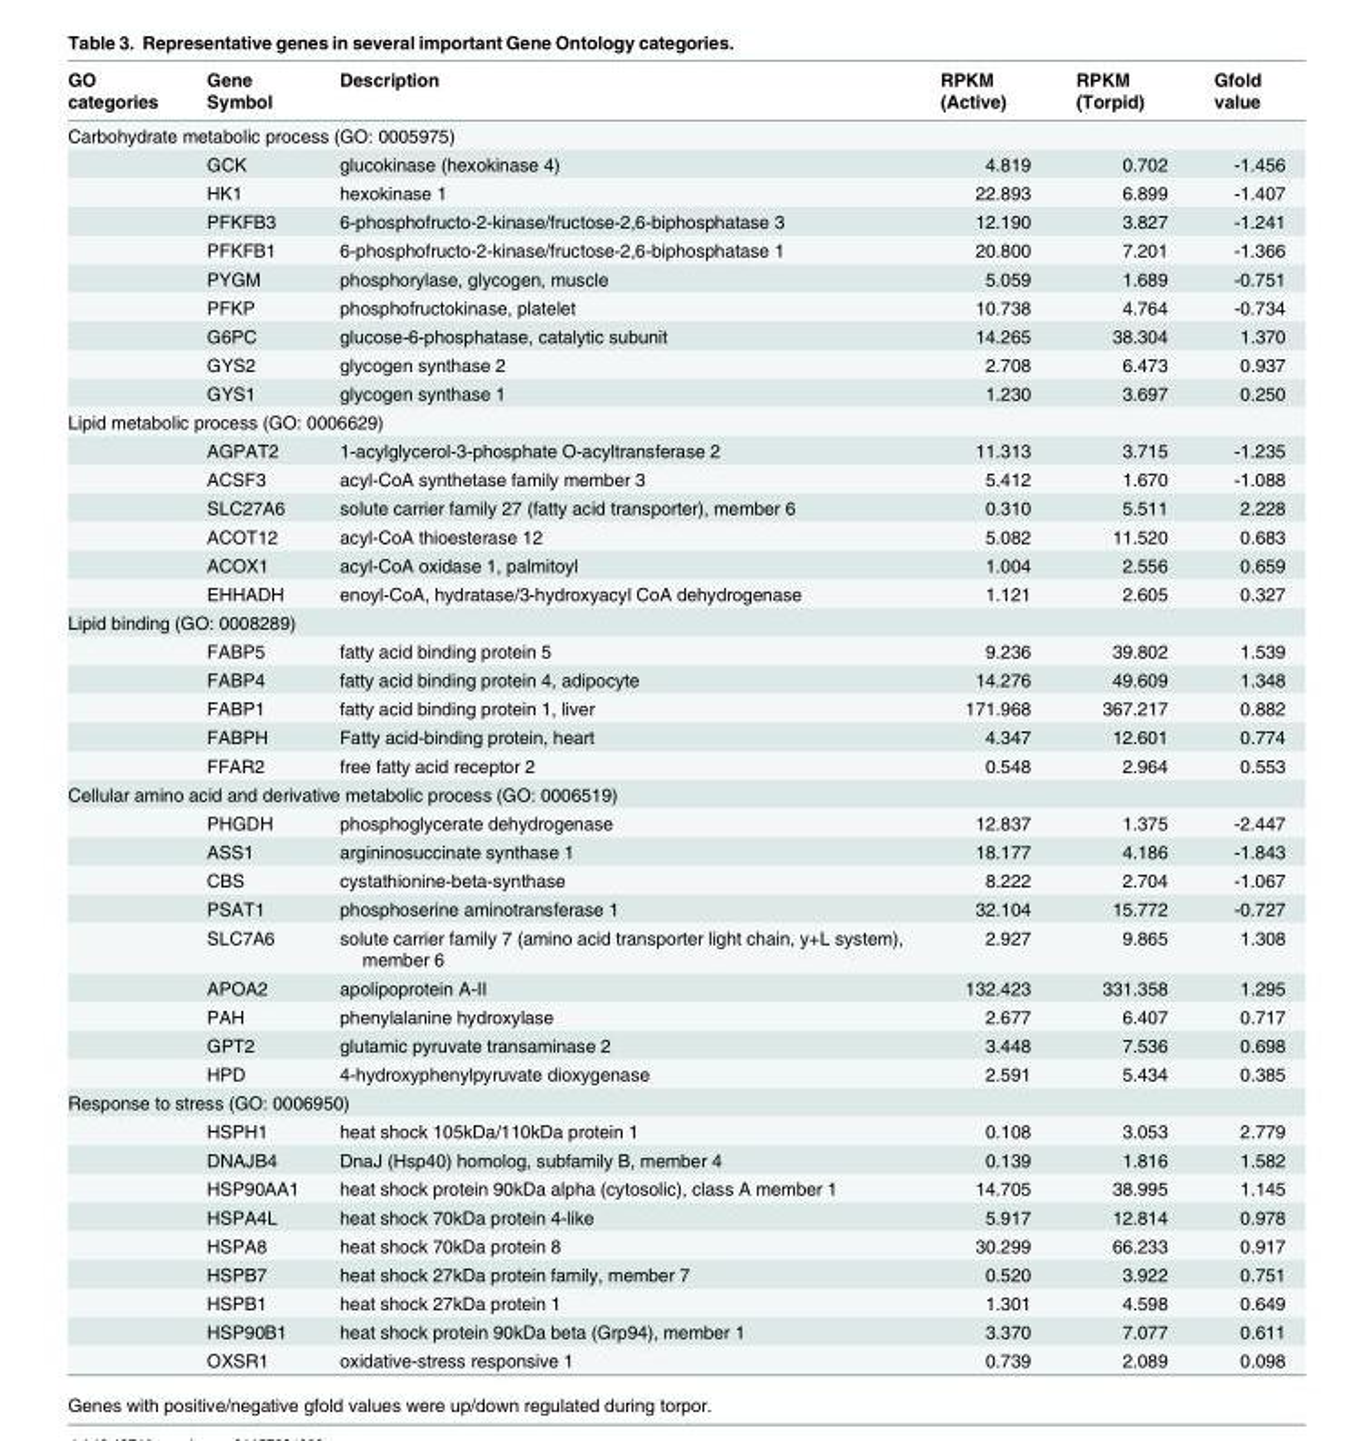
<table><thead><tr><td>GO categories</td><td>Gene Symbol</td><td>Description</td><td>RPKM (Active)</td><td>RPKM (Torpid)</td><td>Gfold value</td></tr></thead><tbody><tr><td colspan="6">Carbohydrate metabolic process (GO: 0005975)</td></tr><tr><td></td><td>GCK</td><td>glucokinase (hexokinase 4)</td><td>4.819</td><td>0.702</td><td>-1.456</td></tr><tr><td></td><td>HK1</td><td>hexokinase 1</td><td>22.893</td><td>6.899</td><td>-1.407</td></tr><tr><td></td><td>PFKFB3</td><td>6-phosphofructo-2-kinase/fructose-2,6-biphosphatase 3</td><td>12.190</td><td>3.827</td><td>-1.241</td></tr><tr><td></td><td>PFKFB1</td><td>6-phosphofructo-2-kinase/fructose-2,6-biphosphatase 1</td><td>20.800</td><td>7.201</td><td>-1.366</td></tr><tr><td></td><td>PYGM</td><td>phosphorylase, glycogen, muscle</td><td>5.059</td><td>1.689</td><td>-0.751</td></tr><tr><td></td><td>PFKP</td><td>phosphofructokinase, platelet</td><td>10.738</td><td>4.764</td><td>-0.734</td></tr><tr><td></td><td>G6PC</td><td>glucose-6-phosphatase, catalytic subunit</td><td>14.265</td><td>38.304</td><td>1.370</td></tr><tr><td></td><td>GYS2</td><td>glycogen synthase 2</td><td>2.708</td><td>6.473</td><td>0.937</td></tr><tr><td></td><td>GYS1</td><td>glycogen synthase 1</td><td>1.230</td><td>3.697</td><td>0.250</td></tr><tr><td colspan="6">Lipid metabolic process (GO: 0006629)</td></tr><tr><td></td><td>AGPAT2</td><td>1-acylglycerol-3-phosphate O-acyltransferase 2</td><td>11.313</td><td>3.715</td><td>-1.235</td></tr><tr><td></td><td>ACSF3</td><td>acyl-CoA synthetase family member 3</td><td>5.412</td><td>1.670</td><td>-1.088</td></tr><tr><td></td><td>SLC27A6</td><td>solute carrier family 27 (fatty acid transporter), member 6</td><td>0.310</td><td>5.511</td><td>2.228</td></tr><tr><td></td><td>ACOT12</td><td>acyl-CoA thioesterase 12</td><td>5.082</td><td>11.520</td><td>0.683</td></tr><tr><td></td><td>ACOX1</td><td>acyl-CoA oxidase 1, palmitoyl</td><td>1.004</td><td>2.556</td><td>0.659</td></tr><tr><td></td><td>EHHADH</td><td>enoyl-CoA, hydratase/3-hydroxyacyl CoA dehydrogenase</td><td>1.121</td><td>2.605</td><td>0.327</td></tr><tr><td colspan="6">Lipid binding (GO: 0008289)</td></tr><tr><td></td><td>FABP5</td><td>fatty acid binding protein 5</td><td>9.236</td><td>39.802</td><td>1.539</td></tr><tr><td></td><td>FABP4</td><td>fatty acid binding protein 4, adipocyte</td><td>14.276</td><td>49.609</td><td>1.348</td></tr><tr><td></td><td>FABP1</td><td>fatty acid binding protein 1, liver</td><td>171.968</td><td>367.217</td><td>0.882</td></tr><tr><td></td><td>FABPH</td><td>Fatty acid-binding protein, heart</td><td>4.347</td><td>12.601</td><td>0.774</td></tr><tr><td></td><td>FFAR2</td><td>free fatty acid receptor 2</td><td>0.548</td><td>2.964</td><td>0.553</td></tr><tr><td colspan="6">Cellular amino acid and derivative metabolic process (GO: 0006519)</td></tr><tr><td></td><td>PHGDH</td><td>phosphoglycerate dehydrogenase</td><td>12.837</td><td>1.375</td><td>-2.447</td></tr><tr><td></td><td>ASS1</td><td>argininosuccinate synthase 1</td><td>18.177</td><td>4.186</td><td>-1.843</td></tr><tr><td></td><td>CBS</td><td>cystathionine-beta-synthase</td><td>8.222</td><td>2.704</td><td>-1.067</td></tr><tr><td></td><td>PSAT1</td><td>phosphoserine aminotransferase 1</td><td>32.104</td><td>15.772</td><td>-0.727</td></tr><tr><td></td><td>SLC7A6</td><td>solute carrier family 7 (amino acid transporter light chain, y+L system), member 6</td><td>2.927</td><td>9.865</td><td>1.308</td></tr><tr><td></td><td>APOA2</td><td>apolipoprotein A-II</td><td>132.423</td><td>331.358</td><td>1.295</td></tr><tr><td></td><td>PAH</td><td>phenylalanine hydroxylase</td><td>2.677</td><td>6.407</td><td>0.717</td></tr><tr><td></td><td>GPT2</td><td>glutamic pyruvate transaminase 2</td><td>3.448</td><td>7.536</td><td>0.698</td></tr><tr><td></td><td>HPD</td><td>4-hydroxyphenylpyruvate dioxygenase</td><td>2.591</td><td>5.434</td><td>0.385</td></tr><tr><td colspan="6">Response to stress (GO: 0006950)</td></tr><tr><td></td><td>HSPH1</td><td>heat shock 105kDa/110kDa protein 1</td><td>0.108</td><td>3.053</td><td>2.779</td></tr><tr><td></td><td>DNAJB4</td><td>DnaJ (Hsp40) homolog, subfamily B, member 4</td><td>0.139</td><td>1.816</td><td>1.582</td></tr><tr><td></td><td>HSP90AA1</td><td>heat shock protein 90kDa alpha (cytosolic), class A member 1</td><td>14.705</td><td>38.995</td><td>1.145</td></tr><tr><td></td><td>HSPA4L</td><td>heat shock 70kDa protein 4-like</td><td>5.917</td><td>12.814</td><td>0.978</td></tr><tr><td></td><td>HSPA8</td><td>heat shock 70kDa protein 8</td><td>30.299</td><td>66.233</td><td>0.917</td></tr><tr><td></td><td>HSPB7</td><td>heat shock 27kDa protein family, member 7</td><td>0.520</td><td>3.922</td><td>0.751</td></tr><tr><td></td><td>HSPB1</td><td>heat shock 27kDa protein 1</td><td>1.301</td><td>4.598</td><td>0.649</td></tr><tr><td></td><td>HSP90B1</td><td>heat shock protein 90kDa beta (Grp94), member 1</td><td>3.370</td><td>7.077</td><td>0.611</td></tr><tr><td></td><td>OXSR1</td><td>oxidative-stress responsive 1</td><td>0.739</td><td>2.089</td><td>0.098</td></tr></tbody></table>